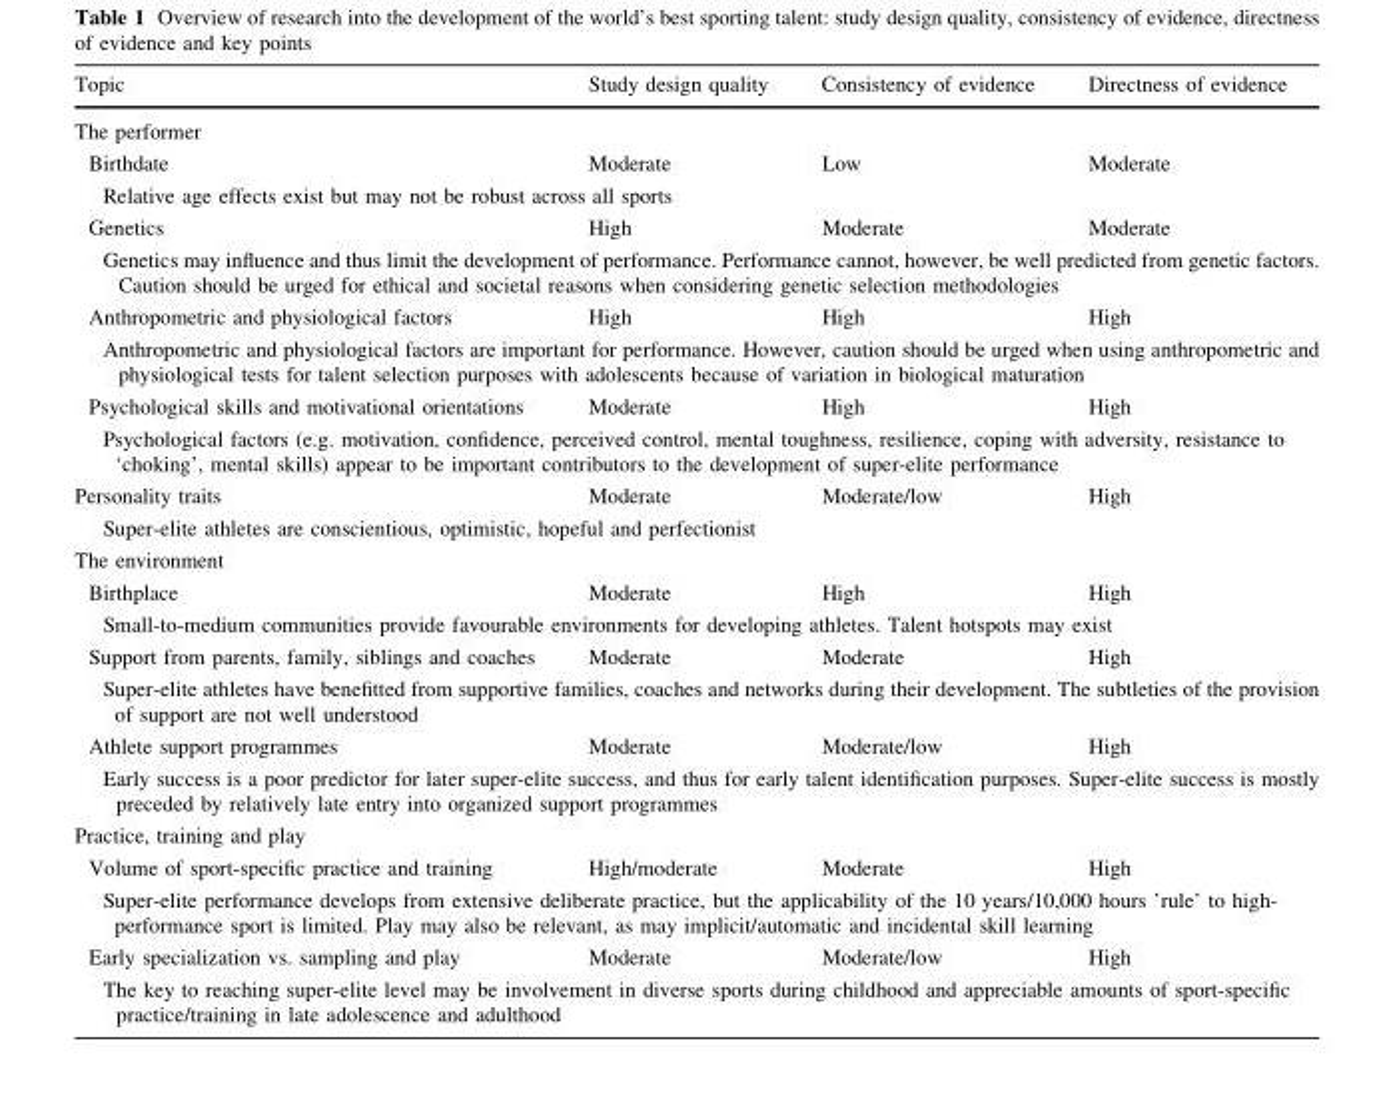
<table><thead><tr><td>Topic</td><td>Study design quality</td><td>Consistency of evidence</td><td>Directness of evidence</td></tr></thead><tbody><tr><td colspan="4">The performer</td></tr><tr><td>Birthdate</td><td>Moderate</td><td>Low</td><td>Moderate</td></tr><tr><td colspan="4">Relative age effects exist but may not be robust across all sports</td></tr><tr><td>Genetics</td><td>High</td><td>Moderate</td><td>Moderate</td></tr><tr><td colspan="4">Genetics may influence and thus limit the development of performance. Performance cannot, however, be well predicted from genetic factors. Caution should be urged for ethical and societal reasons when considering genetic selection methodologies</td></tr><tr><td>Anthropometric and physiological factors</td><td>High</td><td>High</td><td>High</td></tr><tr><td colspan="4">Anthropometric and physiological factors are important for performance. However, caution should be urged when using anthropometric and physiological tests for talent selection purposes with adolescents because of variation in biological maturation</td></tr><tr><td>Psychological skills and motivational orientations</td><td>Moderate</td><td>High</td><td>High</td></tr><tr><td colspan="4">Psychological factors (e.g. motivation, confidence, perceived control, mental toughness, resilience, coping with adversity, resistance to ‘choking’, mental skills) appear to be important contributors to the development of super-elite performance</td></tr><tr><td>Personality traits</td><td>Moderate</td><td>Moderate/low</td><td>High</td></tr><tr><td colspan="4">Super-elite athletes are conscientious, optimistic, hopeful and perfectionist</td></tr><tr><td colspan="4">The environment</td></tr><tr><td>Birthplace</td><td>Moderate</td><td>High</td><td>High</td></tr><tr><td colspan="4">Small-to-medium communities provide favourable environments for developing athletes. Talent hotspots may exist</td></tr><tr><td>Support from parents, family, siblings and coaches</td><td>Moderate</td><td>Moderate</td><td>High</td></tr><tr><td colspan="4">Super-elite athletes have benefitted from supportive families, coaches and networks during their development. The subtleties of the provision of support are not well understood</td></tr><tr><td>Athlete support programmes</td><td>Moderate</td><td>Moderate/low</td><td>High</td></tr><tr><td colspan="4">Early success is a poor predictor for later super-elite success, and thus for early talent identification purposes. Super-elite success is mostly preceded by relatively late entry into organized support programmes</td></tr><tr><td colspan="4">Practice, training and play</td></tr><tr><td>Volume of sport-specific practice and training</td><td>High/moderate</td><td>Moderate</td><td>High</td></tr><tr><td colspan="4">Super-elite performance develops from extensive deliberate practice, but the applicability of the 10 years/10,000 hours ’rule’ to high- performance sport is limited. Play may also be relevant, as may implicit/automatic and incidental skill learning</td></tr><tr><td>Early specialization vs. sampling and play</td><td>Moderate</td><td>Moderate/low</td><td>High</td></tr><tr><td colspan="4">The key to reaching super-elite level may be involvement in diverse sports during childhood and appreciable amounts of sport-specific practice/training in late adolescence and adulthood</td></tr></tbody></table>